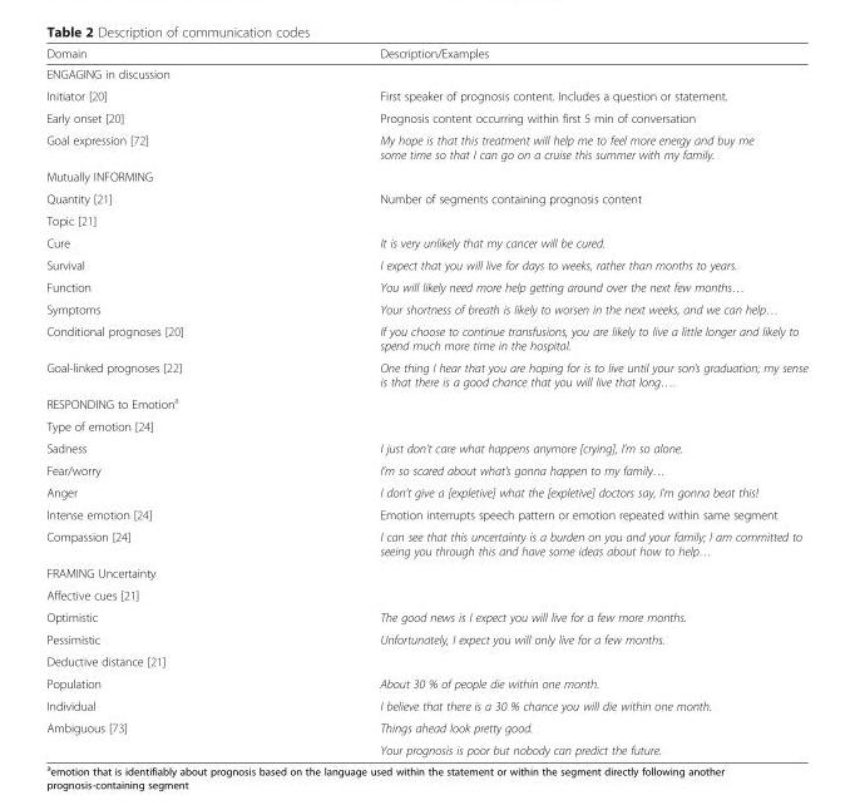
<table><thead><tr><td>Domain</td><td>Description/Examples</td></tr></thead><tbody><tr><td colspan="2">ENGAGING in discussion</td></tr><tr><td>Initiator [20]</td><td>First speaker of prognosis content. Includes a question or statement.</td></tr><tr><td>Early onset [20]</td><td>Prognosis content occurring within first 5 min of conversation</td></tr><tr><td>Goal expression [72]</td><td>My hope is that this treatment will help me to feel more energy and buy me some time so that I can go on a cruise this summer with my family.</td></tr><tr><td colspan="2">Mutually INFORMING</td></tr><tr><td>Quantity [21]</td><td>Number of segments containing prognosis content</td></tr><tr><td colspan="2">Topic [21]</td></tr><tr><td>Cure</td><td>It is very unlikely that my cancer will be cured.</td></tr><tr><td>Survival</td><td>I expect that you will live for days to weeks, rather than months to years.</td></tr><tr><td>Function</td><td>You will likely need more help getting around over the next few months…</td></tr><tr><td>Symptoms</td><td>Your shortness of breath is likely to worsen in the next weeks, and we can help…</td></tr><tr><td>Conditional prognoses [20]</td><td>If you choose to continue transfusions, you are likely to live a little longer and likely to spend much more time in the hospital.</td></tr><tr><td>Goal-linked prognoses [22]</td><td>One thing I hear that you are hoping for is to live until your son’s graduation; my sense is that there is a good chance that you will live that long….</td></tr><tr><td colspan="2">RESPONDING to Emotion<sup>a</sup></td></tr><tr><td colspan="2">Type of emotion [24]</td></tr><tr><td>Sadness</td><td>I just don’t care what happens anymore [crying], I’m so alone.</td></tr><tr><td>Fear/worry</td><td>I’m so scared about what’s gonna happen to my family…</td></tr><tr><td>Anger</td><td>I don’t give a [expletive] what the [expletive] doctors say, I’m gonna beat this!</td></tr><tr><td>Intense emotion [24]</td><td>Emotion interrupts speech pattern or emotion repeated within same segment</td></tr><tr><td>Compassion [24]</td><td>I can see that this uncertainty is a burden on you and your family; I am committed to seeing you through this and have some ideas about how to help…</td></tr><tr><td colspan="2">FRAMING Uncertainty</td></tr><tr><td colspan="2">Affective cues [21]</td></tr><tr><td>Optimistic</td><td>The good news is I expect you will live for a few more months.</td></tr><tr><td>Pessimistic</td><td>Unfortunately, I expect you will only live for a few months.</td></tr><tr><td colspan="2">Deductive distance [21]</td></tr><tr><td>Population</td><td>About 30 % of people die within one month.</td></tr><tr><td>Individual</td><td>I believe that there is a 30 % chance you will die within one month.</td></tr><tr><td rowspan="2">Ambiguous [73]</td><td>Things ahead look pretty good.</td></tr><tr><td>Your prognosis is poor but nobody can predict the future.</td></tr></tbody></table>